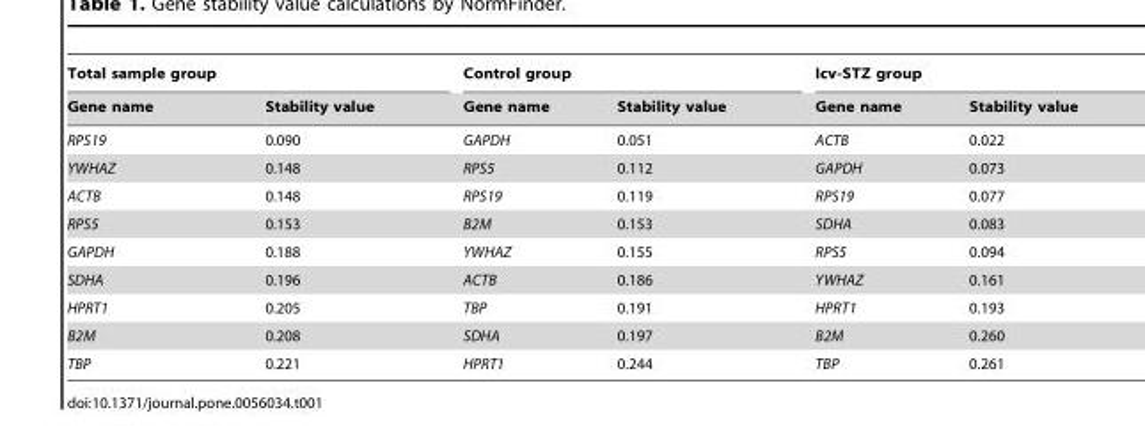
<table><thead><tr><td colspan="2">Total sample group</td><td colspan="2">Control group</td><td colspan="2">Icv-STZ group</td></tr><tr><td>Gene name</td><td>Stability value</td><td>Gene name</td><td>Stability value</td><td>Gene name</td><td>Stability value</td></tr></thead><tbody><tr><td>RPS19</td><td>0.090</td><td>GAPDH</td><td>0.051</td><td>ACTB</td><td>0.022</td></tr><tr><td>YWHAZ</td><td>0.148</td><td>RPS5</td><td>0.112</td><td>GAPDH</td><td>0.073</td></tr><tr><td>ACTB</td><td>0.148</td><td>RPS19</td><td>0.119</td><td>RPS19</td><td>0.077</td></tr><tr><td>RPS5</td><td>0.153</td><td>B2M</td><td>0.153</td><td>SDHA</td><td>0.083</td></tr><tr><td>GAPDH</td><td>0.188</td><td>YWHAZ</td><td>0.155</td><td>RPS5</td><td>0.094</td></tr><tr><td>SDHA</td><td>0.196</td><td>ACTB</td><td>0.186</td><td>YWHAZ</td><td>0.161</td></tr><tr><td>HPRT1</td><td>0.205</td><td>TBP</td><td>0.191</td><td>HPRT1</td><td>0.193</td></tr><tr><td>B2M</td><td>0.208</td><td>SDHA</td><td>0.197</td><td>B2M</td><td>0.260</td></tr><tr><td>TBP</td><td>0.221</td><td>HPRT1</td><td>0.244</td><td>TBP</td><td>0.261</td></tr></tbody></table>